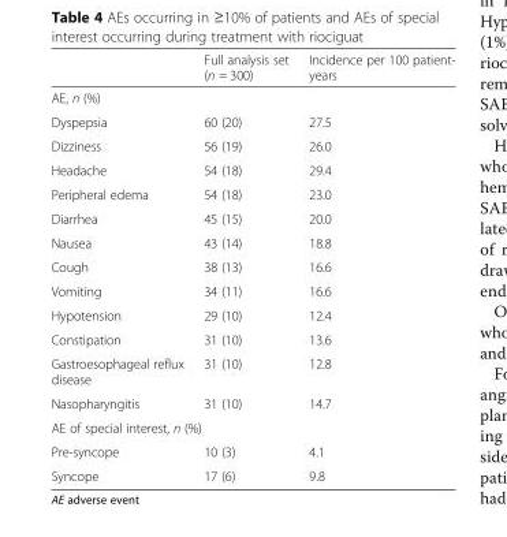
<table><thead><tr><td></td><td>Full analysis set (n = 300)</td><td>Incidence per 100 patient- years</td></tr></thead><tbody><tr><td colspan="3">AE, n (%)</td></tr><tr><td>Dyspepsia</td><td>60 (20)</td><td>27.5</td></tr><tr><td>Dizziness</td><td>56 (19)</td><td>26.0</td></tr><tr><td>Headache</td><td>54 (18)</td><td>29.4</td></tr><tr><td>Peripheral edema</td><td>54 (18)</td><td>23.0</td></tr><tr><td>Diarrhea</td><td>45 (15)</td><td>20.0</td></tr><tr><td>Nausea</td><td>43 (14)</td><td>18.8</td></tr><tr><td>Cough</td><td>38 (13)</td><td>16.6</td></tr><tr><td>Vomiting</td><td>34 (11)</td><td>16.6</td></tr><tr><td>Hypotension</td><td>29 (10)</td><td>12.4</td></tr><tr><td>Constipation</td><td>31 (10)</td><td>13.6</td></tr><tr><td>Gastroesophageal reflux disease</td><td>31 (10)</td><td>12.8</td></tr><tr><td>Nasopharyngitis</td><td>31 (10)</td><td>14.7</td></tr><tr><td colspan="3">AE of special interest, n (%)</td></tr><tr><td>Pre-syncope</td><td>10 (3)</td><td>4.1</td></tr><tr><td>Syncope</td><td>17 (6)</td><td>9.8</td></tr></tbody></table>